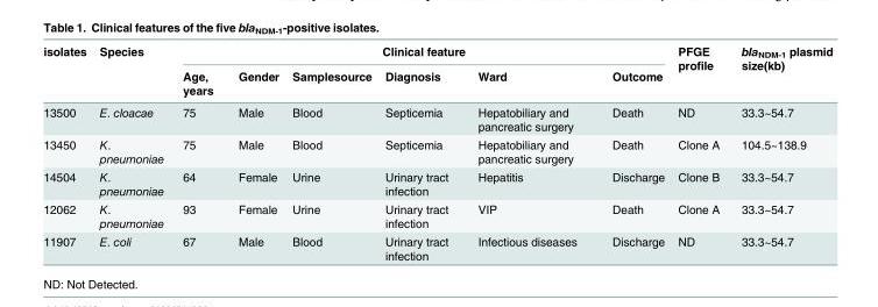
<table><thead><tr><td rowspan="2">isolates</td><td rowspan="2">Species</td><td colspan="6">Clinical feature</td><td rowspan="2">PFGE profile</td><td rowspan="2">bla<sub>NDM-1</sub> plasmid size(kb)</td></tr><tr><td>Age, years</td><td>Gender</td><td>Samplesource</td><td>Diagnosis</td><td>Ward</td><td>Outcome</td></tr></thead><tbody><tr><td>13500</td><td>E. cloacae</td><td>75</td><td>Male</td><td>Blood</td><td>Septicemia</td><td>Hepatobiliary and pancreatic surgery</td><td>Death</td><td>ND</td><td>33.3~54.7</td></tr><tr><td>13450</td><td>K. pneumoniae</td><td>75</td><td>Male</td><td>Blood</td><td>Septicemia</td><td>Hepatobiliary and pancreatic surgery</td><td>Death</td><td>Clone A</td><td>104.5~138.9</td></tr><tr><td>14504</td><td>K. pneumoniae</td><td>64</td><td>Female</td><td>Urine</td><td>Urinary tract infection</td><td>Hepatitis</td><td>Discharge</td><td>Clone B</td><td>33.3~54.7</td></tr><tr><td>12062</td><td>K. pneumoniae</td><td>93</td><td>Female</td><td>Urine</td><td>Urinary tract infection</td><td>VIP</td><td>Death</td><td>Clone A</td><td>33.3~54.7</td></tr><tr><td>11907</td><td>E. coli</td><td>67</td><td>Male</td><td>Blood</td><td>Urinary tract infection</td><td>Infectious diseases</td><td>Discharge</td><td>ND</td><td>33.3~54.7</td></tr></tbody></table>